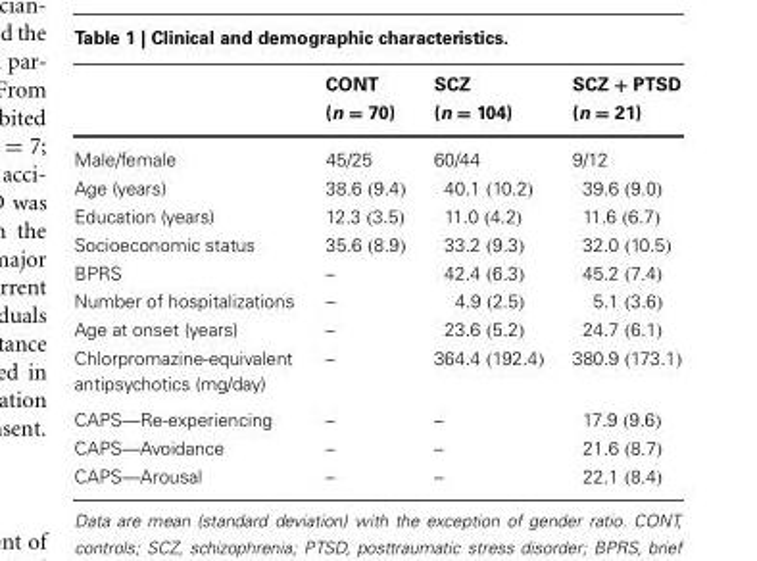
<table><thead><tr><td></td><td>CONT (n = 70)</td><td>SCZ (n = 104)</td><td>SCZ + PTSD (n = 21)</td></tr></thead><tbody><tr><td>Male/female</td><td>45/25</td><td>60/44</td><td>9/12</td></tr><tr><td>Age (years)</td><td>38.6 (9.4)</td><td>40.1 (10.2)</td><td>39.6 (9.0)</td></tr><tr><td>Education (years)</td><td>12.3 (3.5)</td><td>11.0 (4.2)</td><td>11.6 (6.7)</td></tr><tr><td>Socioeconomic status</td><td>35.6 (8.9)</td><td>33.2 (9.3)</td><td>32.0 (10.5)</td></tr><tr><td>BPRS</td><td>–</td><td>42.4 (6.3)</td><td>45.2 (7.4)</td></tr><tr><td>Number of hospitalizations</td><td>–</td><td>4.9 (2.5)</td><td>5.1 (3.6)</td></tr><tr><td>Age at onset (years)</td><td>–</td><td>23.6 (5.2)</td><td>24.7 (6.1)</td></tr><tr><td>Chlorpromazine-equivalent antipsychotics (mg/day)</td><td>–</td><td>364.4 (192.4)</td><td>380.9 (173.1)</td></tr><tr><td>CAPS—Re-experiencing</td><td>–</td><td>–</td><td>17.9 (9.6)</td></tr><tr><td>CAPS—Avoidance</td><td>–</td><td>–</td><td>21.6 (8.7)</td></tr><tr><td>CAPS—Arousal</td><td>–</td><td>–</td><td>22.1 (8.4)</td></tr></tbody></table>